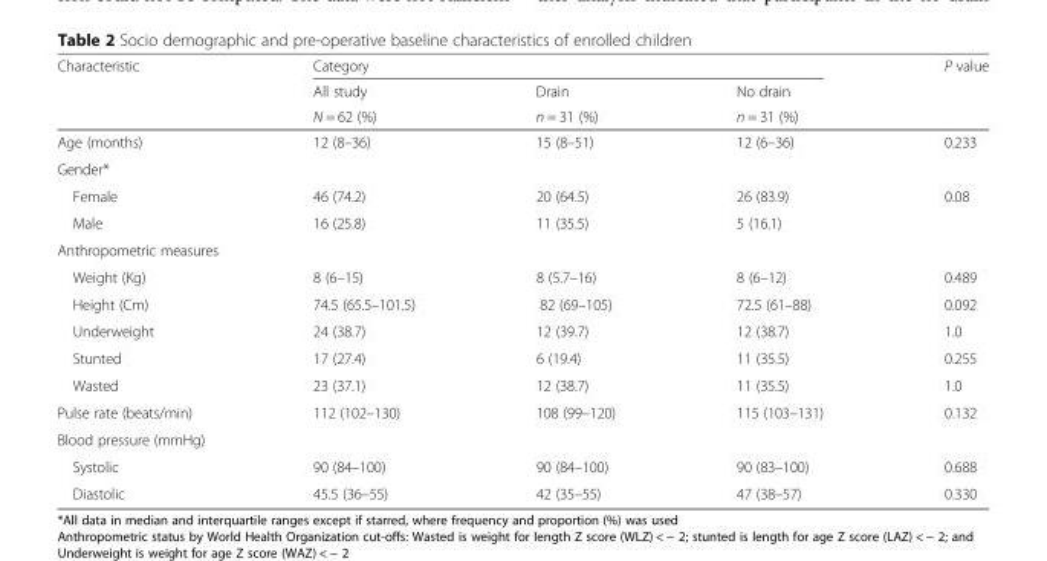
<table><thead><tr><td rowspan="3">Characteristic</td><td colspan="3">Category</td><td rowspan="3">P value</td></tr><tr><td rowspan="2">All study N = 62 (%)</td><td rowspan="2">Drain n = 31 (%)</td><td rowspan="2">No drain n = 31 (%)</td></tr><tr></tr></thead><tbody><tr><td>Age (months)</td><td>12 (8–36)</td><td>15 (8–51)</td><td>12 (6–36)</td><td>0.233</td></tr><tr><td colspan="5">Gender*</td></tr><tr><td>Female</td><td>46 (74.2)</td><td>20 (64.5)</td><td>26 (83.9)</td><td>0.08</td></tr><tr><td>Male</td><td>16 (25.8)</td><td>11 (35.5)</td><td>5 (16.1)</td><td></td></tr><tr><td colspan="5">Anthropometric measures</td></tr><tr><td>Weight (Kg)</td><td>8 (6–15)</td><td>8 (5.7–16)</td><td>8 (6–12)</td><td>0.489</td></tr><tr><td>Height (Cm)</td><td>74.5 (65.5–101.5)</td><td>82 (69–105)</td><td>72.5 (61–88)</td><td>0.092</td></tr><tr><td>Underweight</td><td>24 (38.7)</td><td>12 (39.7)</td><td>12 (38.7)</td><td>1.0</td></tr><tr><td>Stunted</td><td>17 (27.4)</td><td>6 (19.4)</td><td>11 (35.5)</td><td>0.255</td></tr><tr><td>Wasted</td><td>23 (37.1)</td><td>12 (38.7)</td><td>11 (35.5)</td><td>1.0</td></tr><tr><td>Pulse rate (beats/min)</td><td>112 (102–130)</td><td>108 (99–120)</td><td>115 (103–131)</td><td>0.132</td></tr><tr><td colspan="5">Blood pressure (mmHg)</td></tr><tr><td>Systolic</td><td>90 (84–100)</td><td>90 (84–100)</td><td>90 (83–100)</td><td>0.688</td></tr><tr><td>Diastolic</td><td>45.5 (36–55)</td><td>42 (35–55)</td><td>47 (38–57)</td><td>0.330</td></tr></tbody></table>